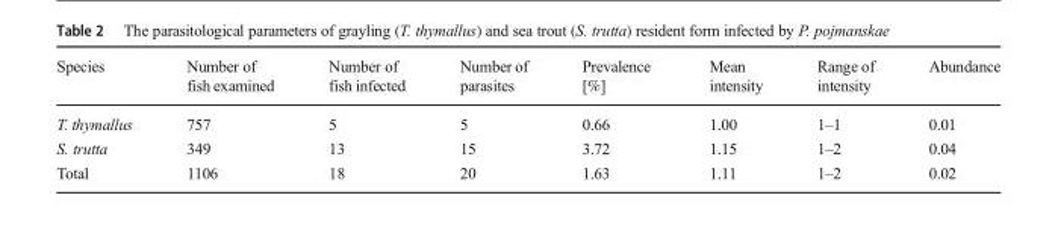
<table><thead><tr><td>Species</td><td>Number of fish examined</td><td>Number of fish infected</td><td>Number of parasites</td><td>Prevalence [%]</td><td>Mean intensity</td><td>Range of intensity</td><td>Abundance</td></tr></thead><tbody><tr><td>T. thymallus</td><td>757</td><td>5</td><td>5</td><td>0.66</td><td>1.00</td><td>1–1</td><td>0.01</td></tr><tr><td>S. trutta</td><td>349</td><td>13</td><td>15</td><td>3.72</td><td>1.15</td><td>1–2</td><td>0.04</td></tr><tr><td>Total</td><td>1106</td><td>18</td><td>20</td><td>1.63</td><td>1.11</td><td>1–2</td><td>0.02</td></tr></tbody></table>